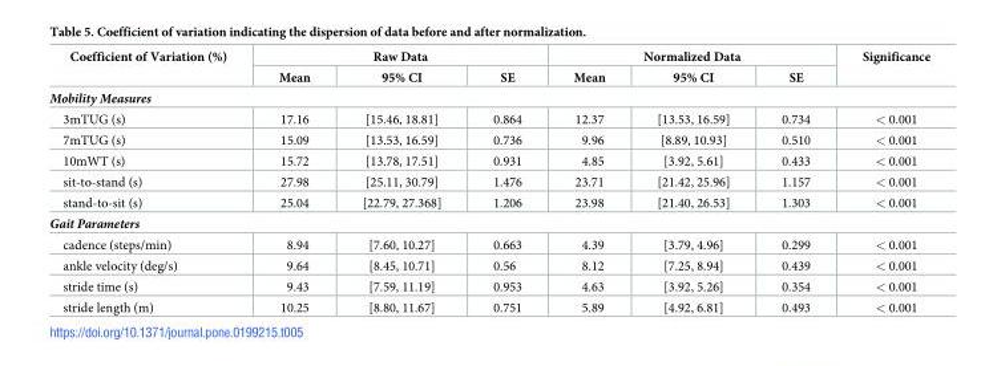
<table><thead><tr><td rowspan="2">Coefficient of Variation (%)</td><td colspan="3">Raw Data</td><td colspan="3">Normalized Data</td><td rowspan="2">Significance</td></tr><tr><td>Mean</td><td>95% CI</td><td>SE</td><td>Mean</td><td>95% CI</td><td>SE</td></tr></thead><tbody><tr><td colspan="8">Mobility Measures</td></tr><tr><td>3mTUG (s)</td><td>17.16</td><td>[15.46, 18.81]</td><td>0.864</td><td>12.37</td><td>[13.53, 16.59]</td><td>0.734</td><td>&lt; 0.001</td></tr><tr><td>7mTUG (s)</td><td>15.09</td><td>[13.53, 16.59]</td><td>0.736</td><td>9.96</td><td>[8.89, 10.93]</td><td>0.510</td><td>&lt; 0.001</td></tr><tr><td>10mWT (s)</td><td>15.72</td><td>[13.78, 17.51]</td><td>0.931</td><td>4.85</td><td>[3.92, 5.61]</td><td>0.433</td><td>&lt; 0.001</td></tr><tr><td>sit-to-stand (s)</td><td>27.98</td><td>[25.11, 30.79]</td><td>1.476</td><td>23.71</td><td>[21.42, 25.96]</td><td>1.157</td><td>&lt; 0.001</td></tr><tr><td>stand-to-sit (s)</td><td>25.04</td><td>[22.79, 27.368]</td><td>1.206</td><td>23.98</td><td>[21.40, 26.53]</td><td>1.303</td><td>&lt; 0.001</td></tr><tr><td colspan="8">Gait Parameters</td></tr><tr><td>cadence (steps/min)</td><td>8.94</td><td>[7.60, 10.27]</td><td>0.663</td><td>4.39</td><td>[3.79, 4.96]</td><td>0.299</td><td>&lt; 0.001</td></tr><tr><td>ankle velocity (deg/s)</td><td>9.64</td><td>[8.45, 10.71]</td><td>0.56</td><td>8.12</td><td>[7.25, 8.94]</td><td>0.439</td><td>&lt; 0.001</td></tr><tr><td>stride time (s)</td><td>9.43</td><td>[7.59, 11.19]</td><td>0.953</td><td>4.63</td><td>[3.92, 5.26]</td><td>0.354</td><td>&lt; 0.001</td></tr><tr><td>stride length (m)</td><td>10.25</td><td>[8.80, 11.67]</td><td>0.751</td><td>5.89</td><td>[4.92, 6.81]</td><td>0.493</td><td>&lt; 0.001</td></tr></tbody></table>